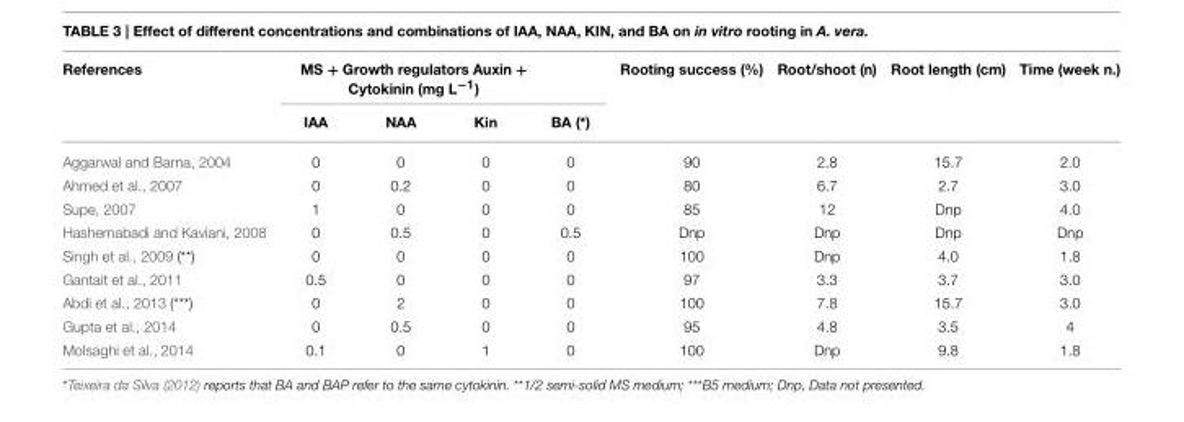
<table><thead><tr><td rowspan="2">References</td><td colspan="4">MS + Growth regulators Auxin + Cytokinin (mg L<sup>−1</sup>)</td><td rowspan="2">Rooting success (%)</td><td rowspan="2">Root/shoot (n)</td><td rowspan="2">Root length (cm)</td><td rowspan="2">Time (week n.)</td></tr><tr><td>IAA</td><td>NAA</td><td>Kin</td><td>BA (*)</td></tr></thead><tbody><tr><td>Aggarwal and Barna, 2004</td><td>0</td><td>0</td><td>0</td><td>0</td><td>90</td><td>2.8</td><td>15.7</td><td>2.0</td></tr><tr><td>Ahmed et al., 2007</td><td>0</td><td>0.2</td><td>0</td><td>0</td><td>80</td><td>6.7</td><td>2.7</td><td>3.0</td></tr><tr><td>Supe, 2007</td><td>1</td><td>0</td><td>0</td><td>0</td><td>85</td><td>12</td><td>Dnp</td><td>4.0</td></tr><tr><td>Hashemabadi and Kaviani, 2008</td><td>0</td><td>0.5</td><td>0</td><td>0.5</td><td>Dnp</td><td>Dnp</td><td>Dnp</td><td>Dnp</td></tr><tr><td>Singh et al., 2009 (**)</td><td>0</td><td>0</td><td>0</td><td>0</td><td>100</td><td>Dnp</td><td>4.0</td><td>1.8</td></tr><tr><td>Gantait et al., 2011</td><td>0.5</td><td>0</td><td>0</td><td>0</td><td>97</td><td>3.3</td><td>3.7</td><td>3.0</td></tr><tr><td>Abdi et al., 2013 (***)</td><td>0</td><td>2</td><td>0</td><td>0</td><td>100</td><td>7.8</td><td>15.7</td><td>3.0</td></tr><tr><td>Gupta et al., 2014</td><td>0</td><td>0.5</td><td>0</td><td>0</td><td>95</td><td>4.8</td><td>3.5</td><td>4</td></tr><tr><td>Molsaghi et al., 2014</td><td>0.1</td><td>0</td><td>1</td><td>0</td><td>100</td><td>Dnp</td><td>9.8</td><td>1.8</td></tr></tbody></table>